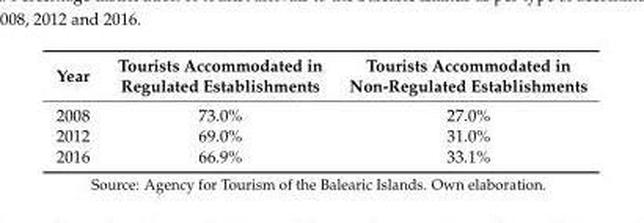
<table><thead><tr><td>Year</td><td>Tourists Accommodated in Regulated Establishments</td><td>Tourists Accommodated in Non-Regulated Establishments</td></tr></thead><tbody><tr><td>2008</td><td>73.0%</td><td>27.0%</td></tr><tr><td>2012</td><td>69.0%</td><td>31.0%</td></tr><tr><td>2016</td><td>66.9%</td><td>33.1%</td></tr></tbody></table>